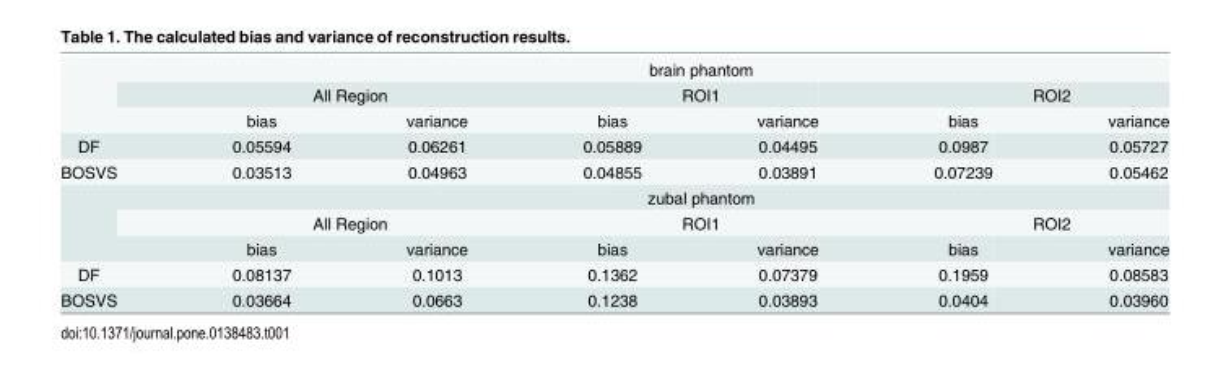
<table><thead><tr><td rowspan="3"></td><td colspan="6">brain phantom</td></tr><tr><td colspan="2">All Region</td><td colspan="2">ROI1</td><td colspan="2">ROI2</td></tr><tr><td>bias</td><td>variance</td><td>bias</td><td>variance</td><td>bias</td><td>variance</td></tr></thead><tbody><tr><td>DF</td><td>0.05594</td><td>0.06261</td><td>0.05889</td><td>0.04495</td><td>0.0987</td><td>0.05727</td></tr><tr><td rowspan="4">BOSVS</td><td>0.03513</td><td>0.04963</td><td>0.04855</td><td>0.03891</td><td>0.07239</td><td>0.05462</td></tr><tr><td colspan="6">zubal phantom</td></tr><tr><td colspan="2">All Region</td><td colspan="2">ROI1</td><td colspan="2">ROI2</td></tr><tr><td>bias</td><td>variance</td><td>bias</td><td>variance</td><td>bias</td><td>variance</td></tr><tr><td>DF</td><td>0.08137</td><td>0.1013</td><td>0.1362</td><td>0.07379</td><td>0.1959</td><td>0.08583</td></tr><tr><td>BOSVS</td><td>0.03664</td><td>0.0663</td><td>0.1238</td><td>0.03893</td><td>0.0404</td><td>0.03960</td></tr></tbody></table>